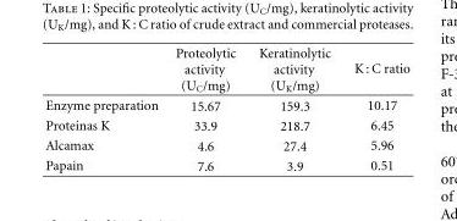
<table><thead><tr><td></td><td>Proteolytic activity (U<sub>C</sub>/mg)</td><td>Keratinolytic activity (U<sub>K</sub>/mg)</td><td>K : C ratio</td></tr></thead><tbody><tr><td>Enzyme preparation</td><td>15.67</td><td>159.3</td><td>10.17</td></tr><tr><td>Proteinas K</td><td>33.9</td><td>218.7</td><td>6.45</td></tr><tr><td>Alcamax</td><td>4.6</td><td>27.4</td><td>5.96</td></tr><tr><td>Papain</td><td>7.6</td><td>3.9</td><td>0.51</td></tr></tbody></table>